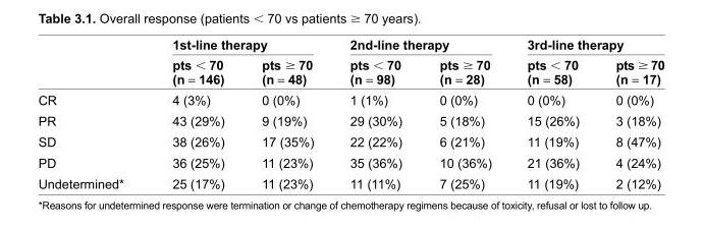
<table><thead><tr><td rowspan="2"></td><td colspan="2">1st-line therapy</td><td colspan="2">2nd-line therapy</td><td colspan="2">3rd-line therapy</td></tr><tr><td>pts &lt; 70 (n = 146)</td><td>pts ≥ 70 (n = 48)</td><td>pts &lt; 70 (n = 98)</td><td>pts ≥ 70 (n = 28)</td><td>pts &lt; 70 (n = 58)</td><td>pts ≥ 70 (n = 17)</td></tr></thead><tbody><tr><td>CR</td><td>4 (3%)</td><td>0 (0%)</td><td>1 (1%)</td><td>0 (0%)</td><td>0 (0%)</td><td>0 (0%)</td></tr><tr><td>PR</td><td>43 (29%)</td><td>9 (19%)</td><td>29 (30%)</td><td>5 (18%)</td><td>15 (26%)</td><td>3 (18%)</td></tr><tr><td>SD</td><td>38 (26%)</td><td>17 (35%)</td><td>22 (22%)</td><td>6 (21%)</td><td>11 (19%)</td><td>8 (47%)</td></tr><tr><td>PD</td><td>36 (25%)</td><td>11 (23%)</td><td>35 (36%)</td><td>10 (36%)</td><td>21 (36%)</td><td>4 (24%)</td></tr><tr><td>Undetermined*</td><td>25 (17%)</td><td>11 (23%)</td><td>11 (11%)</td><td>7 (25%)</td><td>11 (19%)</td><td>2 (12%)</td></tr></tbody></table>